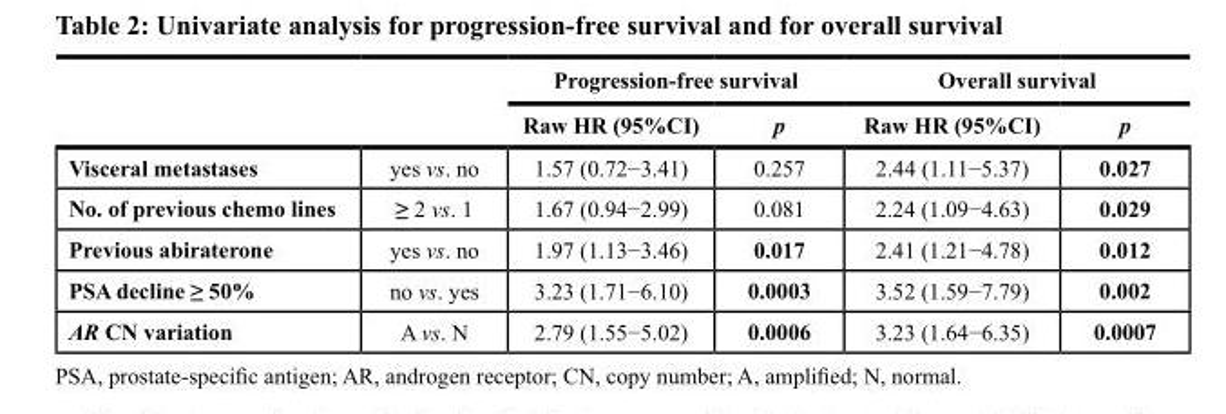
<table><thead><tr><td rowspan="2"></td><td rowspan="2"></td><td colspan="2">Progression-free survival</td><td colspan="2">overall survival</td></tr><tr><td>raw hr (95%cI)</td><td>p</td><td>raw hr (95%cI)</td><td>p</td></tr></thead><tbody><tr><td>Visceral metastases</td><td>yes vs. no</td><td>1.57 (0.72−3.41)</td><td>0.257</td><td>2.44 (1.11−5.37)</td><td>0.027</td></tr><tr><td>no. of previous chemo lines</td><td>≥ 2 vs. 1</td><td>1.67 (0.94−2.99)</td><td>0.081</td><td>2.24 (1.09−4.63)</td><td>0.029</td></tr><tr><td>Previous abiraterone</td><td>yes vs. no</td><td>1.97 (1.13−3.46)</td><td>0.017</td><td>2.41 (1.21−4.78)</td><td>0.012</td></tr><tr><td>PSA decline ≥ 50%</td><td>no vs. yes</td><td>3.23 (1.71−6.10)</td><td>0.0003</td><td>3.52 (1.59−7.79)</td><td>0.002</td></tr><tr><td>AR cn variation</td><td>A vs. N</td><td>2.79 (1.55−5.02)</td><td>0.0006</td><td>3.23 (1.64−6.35)</td><td>0.0007</td></tr></tbody></table>